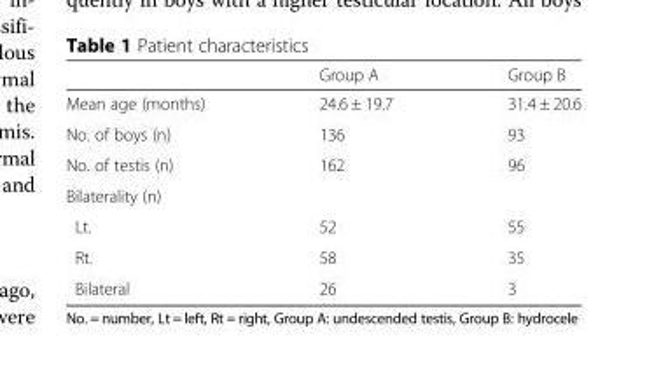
<table><thead><tr><td></td><td>Group A</td><td>Group B</td></tr></thead><tbody><tr><td>Mean age (months)</td><td>24.6 ± 19.7</td><td>31.4 ± 20.6</td></tr><tr><td>No. of boys (n)</td><td>136</td><td>93</td></tr><tr><td>No. of testis (n)</td><td>162</td><td>96</td></tr><tr><td colspan="3">Bilaterality (n)</td></tr><tr><td>Lt.</td><td>52</td><td>55</td></tr><tr><td>Rt.</td><td>58</td><td>35</td></tr><tr><td>Bilateral</td><td>26</td><td>3</td></tr></tbody></table>